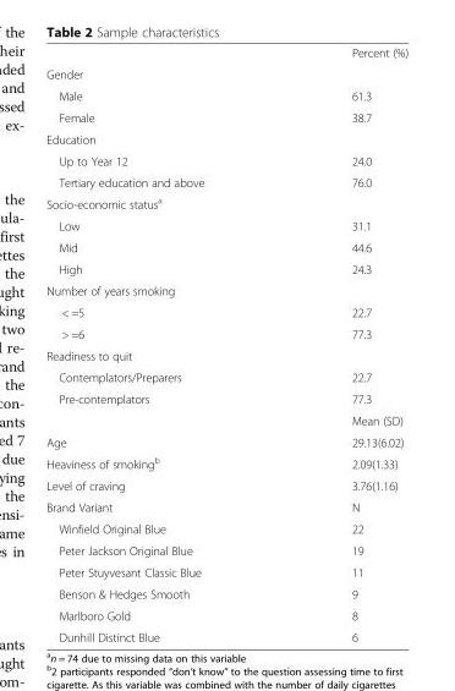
<table><thead><tr><td></td><td>Percent (%)</td></tr></thead><tbody><tr><td colspan="2">Gender</td></tr><tr><td>Male</td><td>61.3</td></tr><tr><td>Female</td><td>38.7</td></tr><tr><td colspan="2">Education</td></tr><tr><td>Up to Year 12</td><td>24.0</td></tr><tr><td>Tertiary education and above</td><td>76.0</td></tr><tr><td colspan="2">Socio-economic status<sup>a</sup></td></tr><tr><td>Low</td><td>31.1</td></tr><tr><td>Mid</td><td>44.6</td></tr><tr><td>High</td><td>24.3</td></tr><tr><td colspan="2">Number of years smoking</td></tr><tr><td>&lt; =5</td><td>22.7</td></tr><tr><td>&gt; =6</td><td>77.3</td></tr><tr><td colspan="2">Readiness to quit</td></tr><tr><td>Contemplators/Preparers</td><td>22.7</td></tr><tr><td rowspan="2">Pre-contemplators</td><td>77.3</td></tr><tr><td>Mean (SD)</td></tr><tr><td>Age</td><td>29.13(6.02)</td></tr><tr><td>Heaviness of smoking<sup>b</sup></td><td>2.09(1.33)</td></tr><tr><td>Level of craving</td><td>3.76(1.16)</td></tr><tr><td>Brand Variant</td><td>N</td></tr><tr><td>Winfield Original Blue</td><td>22</td></tr><tr><td>Peter Jackson Original Blue</td><td>19</td></tr><tr><td>Peter Stuyvesant Classic Blue</td><td>11</td></tr><tr><td>Benson &amp; Hedges Smooth</td><td>9</td></tr><tr><td>Marlboro Gold</td><td>8</td></tr><tr><td>Dunhill Distinct Blue</td><td>6</td></tr></tbody></table>